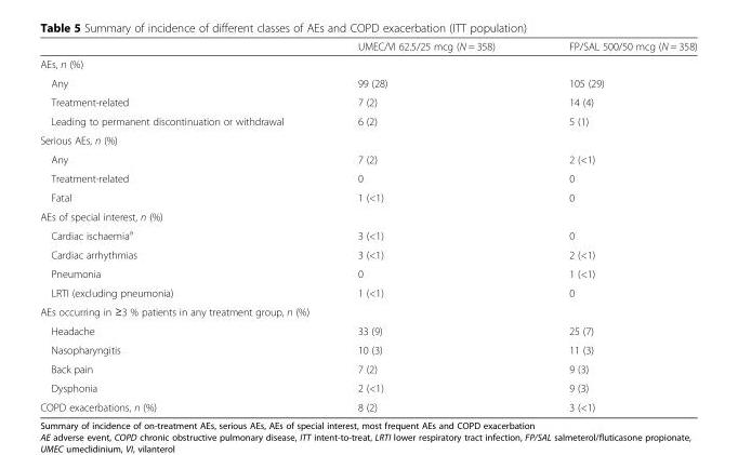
<table><thead><tr><td></td><td>UMEC/VI 62.5/25 mcg (N = 358)</td><td>FP/SAL 500/50 mcg (N = 358)</td></tr></thead><tbody><tr><td colspan="3">AEs, n (%)</td></tr><tr><td>Any</td><td>99 (28)</td><td>105 (29)</td></tr><tr><td>Treatment-related</td><td>7 (2)</td><td>14 (4)</td></tr><tr><td>Leading to permanent discontinuation or withdrawal</td><td>6 (2)</td><td>5 (1)</td></tr><tr><td colspan="3">Serious AEs, n (%)</td></tr><tr><td>Any</td><td>7 (2)</td><td>2 (&lt;1)</td></tr><tr><td>Treatment-related</td><td>0</td><td>0</td></tr><tr><td>Fatal</td><td>1 (&lt;1)</td><td>0</td></tr><tr><td colspan="3">AEs of special interest, n (%)</td></tr><tr><td>Cardiac ischaemia<sup>a</sup></td><td>3 (&lt;1)</td><td>0</td></tr><tr><td>Cardiac arrhythmias</td><td>3 (&lt;1)</td><td>2 (&lt;1)</td></tr><tr><td>Pneumonia</td><td>0</td><td>1 (&lt;1)</td></tr><tr><td>LRTI (excluding pneumonia)</td><td>1 (&lt;1)</td><td>0</td></tr><tr><td colspan="3">AEs occurring in ≥3 % patients in any treatment group, n (%)</td></tr><tr><td>Headache</td><td>33 (9)</td><td>25 (7)</td></tr><tr><td>Nasopharyngitis</td><td>10 (3)</td><td>11 (3)</td></tr><tr><td>Back pain</td><td>7 (2)</td><td>9 (3)</td></tr><tr><td>Dysphonia</td><td>2 (&lt;1)</td><td>9 (3)</td></tr><tr><td>COPD exacerbations, n (%)</td><td>8 (2)</td><td>3 (&lt;1)</td></tr></tbody></table>